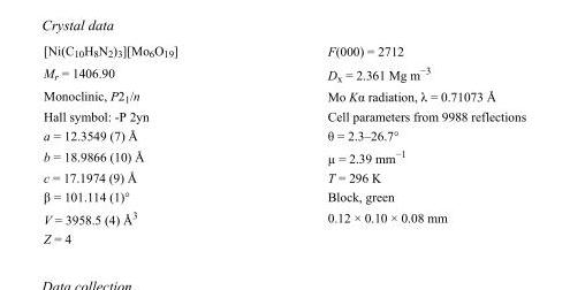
<table><tbody><tr><td>[Ni(C<sub>10</sub>H<sub>8</sub>N<sub>2</sub>)<sub>3</sub>][Mo<sub>6</sub>O<sub>19</sub>]</td><td>F(000) = 2712</td></tr><tr><td>M<sub>r</sub> = 1406.90</td><td>D<sub>x</sub> = 2.361 Mg m<sup>−3</sup></td></tr><tr><td>Monoclinic, P2<sub>1</sub>/n</td><td>Mo Kα radiation, λ = 0.71073 Å</td></tr><tr><td>Hall symbol: -P 2yn</td><td>Cell parameters from 9988 reflections</td></tr><tr><td>a = 12.3549 (7) Å</td><td>θ = 2.3–26.7°</td></tr><tr><td>b = 18.9866 (10) Å</td><td>µ = 2.39 mm<sup>−1</sup></td></tr><tr><td>c = 17.1974 (9) Å</td><td>T = 296 K</td></tr><tr><td>β = 101.114 (1)°</td><td>Block, green</td></tr><tr><td>V = 3958.5 (4) Å<sup>3</sup></td><td>0.12 × 0.10 × 0.08 mm</td></tr><tr><td>Z = 4</td><td></td></tr></tbody></table>